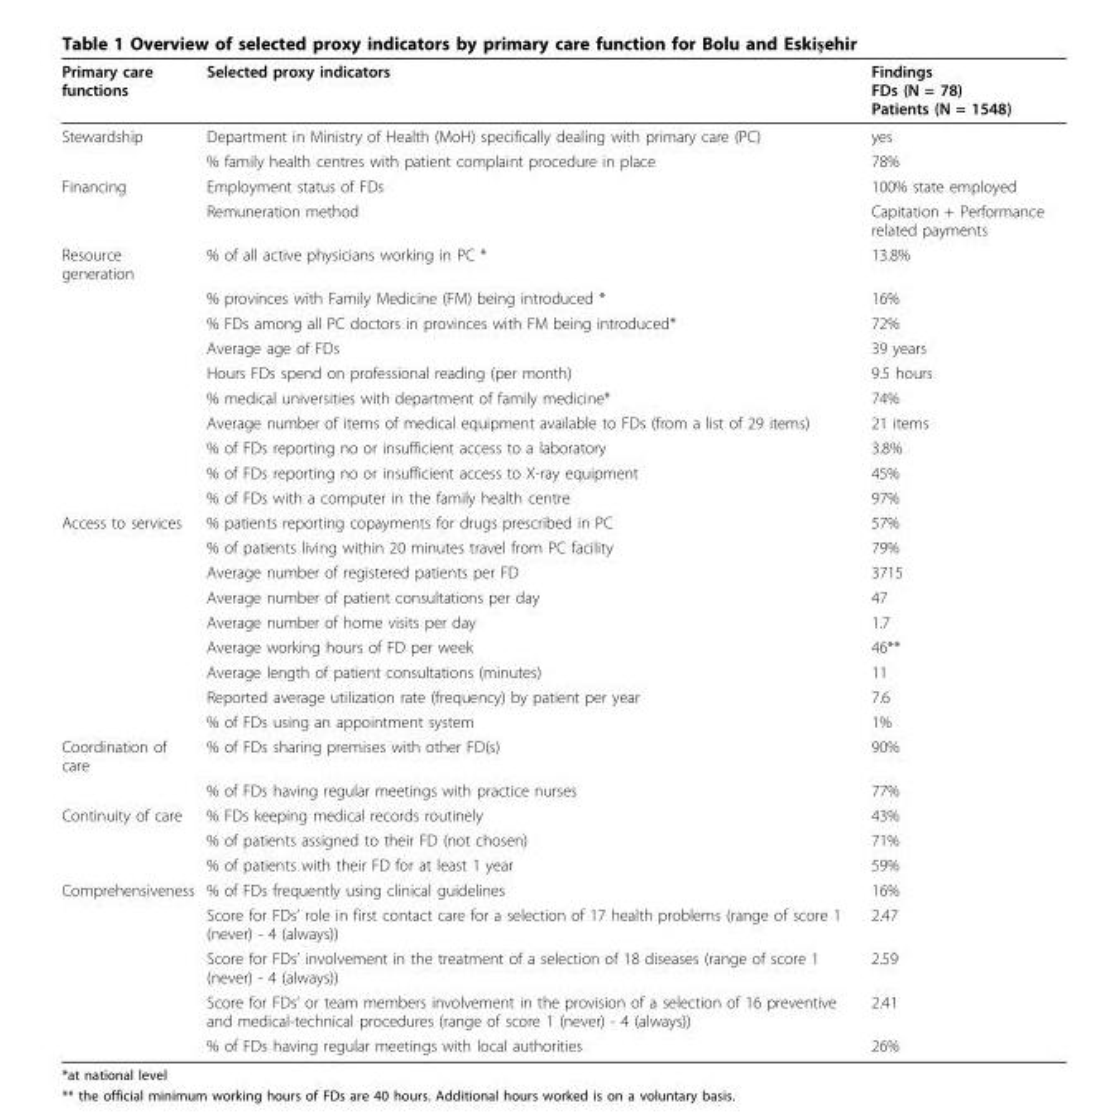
<table><thead><tr><td>Primary care functions</td><td>Selected proxy indicators</td><td>Findings FDs (N = 78) Patients (N = 1548)</td></tr></thead><tbody><tr><td rowspan="2">Stewardship</td><td>Department in Ministry of Health (MoH) specifically dealing with primary care (PC)</td><td>yes</td></tr><tr><td>% family health centres with patient complaint procedure in place</td><td>78%</td></tr><tr><td rowspan="2">Financing</td><td>Employment status of FDs</td><td>100% state employed</td></tr><tr><td>Remuneration method</td><td>Capitation + Performance related payments</td></tr><tr><td rowspan="10">Resource generation</td><td>% of all active physicians working in PC *</td><td>13.8%</td></tr><tr><td>% provinces with Family Medicine (FM) being introduced *</td><td>16%</td></tr><tr><td>% FDs among all PC doctors in provinces with FM being introduced*</td><td>72%</td></tr><tr><td>Average age of FDs</td><td>39 years</td></tr><tr><td>Hours FDs spend on professional reading (per month)</td><td>9.5 hours</td></tr><tr><td>% medical universities with department of family medicine*</td><td>74%</td></tr><tr><td>Average number of items of medical equipment available to FDs (from a list of 29 items)</td><td>21 items</td></tr><tr><td>% of FDs reporting no or insufficient access to a laboratory</td><td>3.8%</td></tr><tr><td>% of FDs reporting no or insufficient access to X-ray equipment</td><td>45%</td></tr><tr><td>% of FDs with a computer in the family health centre</td><td>97%</td></tr><tr><td rowspan="9">Access to services</td><td>% patients reporting copayments for drugs prescribed in PC</td><td>57%</td></tr><tr><td>% of patients living within 20 minutes travel from PC facility</td><td>79%</td></tr><tr><td>Average number of registered patients per FD</td><td>3715</td></tr><tr><td>Average number of patient consultations per day</td><td>47</td></tr><tr><td>Average number of home visits per day</td><td>1.7</td></tr><tr><td>Average working hours of FD per week</td><td>46**</td></tr><tr><td>Average length of patient consultations (minutes)</td><td>11</td></tr><tr><td>Reported average utilization rate (frequency) by patient per year</td><td>7.6</td></tr><tr><td>% of FDs using an appointment system</td><td>1%</td></tr><tr><td rowspan="2">Coordination of care</td><td>% of FDs sharing premises with other FD(s)</td><td>90%</td></tr><tr><td>% of FDs having regular meetings with practice nurses</td><td>77%</td></tr><tr><td rowspan="3">Continuity of care</td><td>% FDs keeping medical records routinely</td><td>43%</td></tr><tr><td>% of patients assigned to their FD (not chosen)</td><td>71%</td></tr><tr><td>% of patients with their FD for at least 1 year</td><td>59%</td></tr><tr><td rowspan="5">Comprehensiveness</td><td>% of FDs frequently using clinical guidelines</td><td>16%</td></tr><tr><td>Score for FDs’ role in first contact care for a selection of 17 health problems (range of score 1 (never) - 4 (always))</td><td>2.47</td></tr><tr><td>Score for FDs’ involvement in the treatment of a selection of 18 diseases (range of score 1 (never) - 4 (always))</td><td>2.59</td></tr><tr><td>Score for FDs’ or team members involvement in the provision of a selection of 16 preventive and medical-technical procedures (range of score 1 (never) - 4 (always))</td><td>2.41</td></tr><tr><td>% of FDs having regular meetings with local authorities</td><td>26%</td></tr></tbody></table>